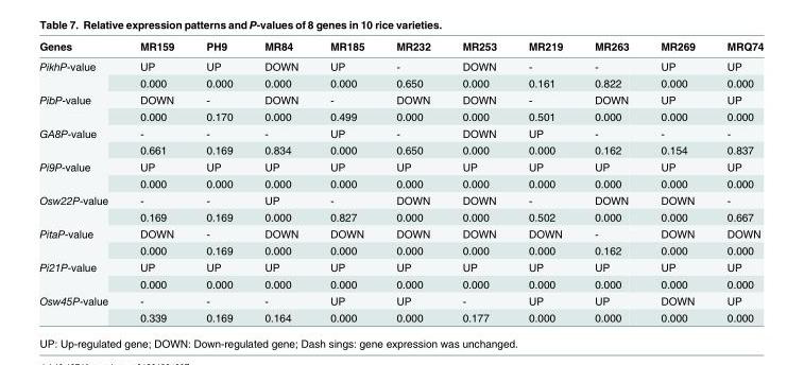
<table><thead><tr><td>Genes</td><td>MR159</td><td>PH9</td><td>MR84</td><td>MR185</td><td>MR232</td><td>MR253</td><td>MR219</td><td>MR263</td><td>MR269</td><td>MRQ74</td></tr></thead><tbody><tr><td rowspan="2">PikhP-value</td><td>UP</td><td>UP</td><td>DOWN</td><td>UP</td><td>-</td><td>DOWN</td><td>-</td><td>-</td><td>UP</td><td>UP</td></tr><tr><td>0.000</td><td>0.000</td><td>0.000</td><td>0.000</td><td>0.650</td><td>0.000</td><td>0.161</td><td>0.822</td><td>0.000</td><td>0.000</td></tr><tr><td rowspan="2">PibP-value</td><td>DOWN</td><td>-</td><td>DOWN</td><td>-</td><td>DOWN</td><td>DOWN</td><td>-</td><td>DOWN</td><td>UP</td><td>UP</td></tr><tr><td>0.000</td><td>0.170</td><td>0.000</td><td>0.499</td><td>0.000</td><td>0.000</td><td>0.501</td><td>0.000</td><td>0.000</td><td>0.000</td></tr><tr><td rowspan="2">GA8P-value</td><td>-</td><td>-</td><td>-</td><td>UP</td><td>-</td><td>DOWN</td><td>UP</td><td>-</td><td>-</td><td>-</td></tr><tr><td>0.661</td><td>0.169</td><td>0.834</td><td>0.000</td><td>0.650</td><td>0.000</td><td>0.000</td><td>0.162</td><td>0.154</td><td>0.837</td></tr><tr><td rowspan="2">Pi9P-value</td><td>UP</td><td>UP</td><td>UP</td><td>UP</td><td>UP</td><td>UP</td><td>UP</td><td>UP</td><td>UP</td><td>UP</td></tr><tr><td>0.000</td><td>0.000</td><td>0.000</td><td>0.000</td><td>0.000</td><td>0.000</td><td>0.000</td><td>0.000</td><td>0.000</td><td>0.000</td></tr><tr><td rowspan="2">Osw22P-value</td><td>-</td><td>-</td><td>UP</td><td>-</td><td>DOWN</td><td>DOWN</td><td>-</td><td>DOWN</td><td>DOWN</td><td>-</td></tr><tr><td>0.169</td><td>0.169</td><td>0.000</td><td>0.827</td><td>0.000</td><td>0.000</td><td>0.502</td><td>0.000</td><td>0.000</td><td>0.667</td></tr><tr><td rowspan="2">PitaP-value</td><td>DOWN</td><td>-</td><td>DOWN</td><td>DOWN</td><td>DOWN</td><td>DOWN</td><td>DOWN</td><td>-</td><td>DOWN</td><td>DOWN</td></tr><tr><td>0.000</td><td>0.169</td><td>0.000</td><td>0.000</td><td>0.000</td><td>0.000</td><td>0.000</td><td>0.162</td><td>0.000</td><td>0.000</td></tr><tr><td rowspan="2">Pi21P-value</td><td>UP</td><td>UP</td><td>UP</td><td>UP</td><td>UP</td><td>UP</td><td>UP</td><td>UP</td><td>UP</td><td>UP</td></tr><tr><td>0.000</td><td>0.000</td><td>0.000</td><td>0.000</td><td>0.000</td><td>0.000</td><td>0.000</td><td>0.000</td><td>0.000</td><td>0.000</td></tr><tr><td rowspan="2">Osw45P-value</td><td>-</td><td>-</td><td>-</td><td>UP</td><td>UP</td><td>-</td><td>UP</td><td>UP</td><td>DOWN</td><td>UP</td></tr><tr><td>0.339</td><td>0.169</td><td>0.164</td><td>0.000</td><td>0.000</td><td>0.177</td><td>0.000</td><td>0.000</td><td>0.000</td><td>0.000</td></tr></tbody></table>